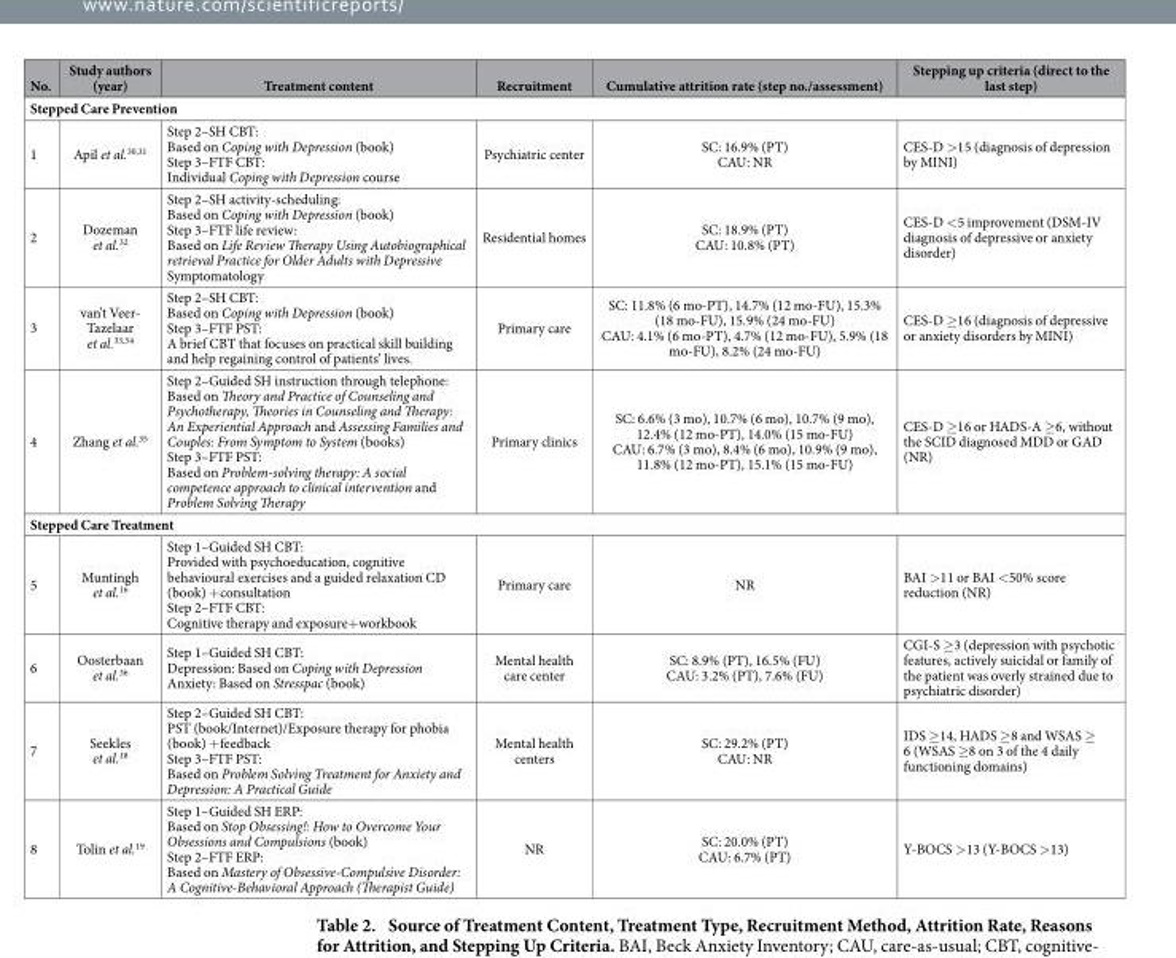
<table><thead><tr><td>No.</td><td>Study authors (year)</td><td>Treatment content</td><td>Recruitment</td><td>Cumulative attrition rate (step no./assessment)</td><td>Stepping up criteria (direct to the last step)</td></tr></thead><tbody><tr><td colspan="6">Stepped Care Prevention</td></tr><tr><td>1</td><td>Apil et al.<sup>30</sup>,<sup>31</sup></td><td>Step 2–SH CBT: Based on Coping with Depression (book) Step 3–FTF CBT: Individual Coping with Depression course</td><td>Psychiatric center</td><td>SC: 16.9% (PT) CAU: NR</td><td>CES-D &gt; 15 (diagnosis of depression by MINI)</td></tr><tr><td>2</td><td>Dozeman et al.<sup>32</sup></td><td>Step 2–SH activity-scheduling: Based on Coping with Depression (book) Step 3–FTF life review: Based on Life Review Therapy Using Autobiographical retrieval Practice for Older Adults with Depressive Symptomatology</td><td>Residential homes</td><td>SC: 18.9% (PT) CAU: 10.8% (PT)</td><td>CES-D &lt; 5 improvement (DSM-IV diagnosis of depressive or anxiety disorder)</td></tr><tr><td>3</td><td>van’t Veer- Tazelaar et al.<sup>33</sup>,<sup>34</sup></td><td>Step 2–SH CBT: Based on Coping with Depression (book) Step 3–FTF PST: A brief CBT that focuses on practical skill building and help regaining control of patients’ lives.</td><td>Primary care</td><td>SC: 11.8% (6 mo-PT), 14.7% (12 mo-FU), 15.3% (18 mo-FU), 15.9% (24 mo-FU) CAU: 4.1% (6 mo-PT), 4.7% (12 mo-FU), 5.9% (18 mo-FU), 8.2% (24 mo-FU)</td><td>CES-D ≥ 16 (diagnosis of depressive or anxiety disorders by MINI)</td></tr><tr><td>4</td><td>Zhang et al.<sup>35</sup></td><td>Step 2–Guided SH instruction through telephone: Based on Theory and Practice of Counseling and Psychotherapy, Theories in Counseling and Therapy: An Experiential Approach and Assessing Families and Couples: From Symptom to System (books) Step 3–FTF PST: Based on Problem-solving therapy: A social competence approach to clinical intervention and Problem Solving Therapy</td><td>Primary clinics</td><td>SC: 6.6% (3 mo), 10.7% (6 mo), 10.7% (9 mo), 12.4% (12 mo-PT), 14.0% (15 mo-FU) CAU: 6.7% (3 mo), 8.4% (6 mo), 10.9% (9 mo), 11.8% (12 mo-PT), 15.1% (15 mo-FU)</td><td>CES-D ≥ 16 or HADS-A ≥ 6, without the SCID diagnosed MDD or GAD (NR)</td></tr><tr><td colspan="6">Stepped Care Treatment</td></tr><tr><td>5</td><td>Muntingh et al.<sup>16</sup></td><td>Step 1–Guided SH CBT: Provided with psychoeducation, cognitive behavioural exercises and a guided relaxation CD (book) + consultation Step 2–FTF CBT: Cognitive therapy and exposure+ workbook</td><td>Primary care</td><td>NR</td><td>BAI &gt; 11 or BAI &lt; 50% score reduction (NR)</td></tr><tr><td>6</td><td>Oosterbaan et al.<sup>36</sup></td><td>Step 1–Guided SH CBT: Depression: Based on Coping with Depression Anxiety: Based on Stresspac (book)</td><td>Mental health care center</td><td>SC: 8.9% (PT), 16.5% (FU) CAU: 3.2% (PT), 7.6% (FU)</td><td>CGI-S ≥ 3 (depression with psychotic features, actively suicidal or family of the patient was overly strained due to psychiatric disorder)</td></tr><tr><td>7</td><td>Seekles et al.<sup>18</sup></td><td>Step 2–Guided SH CBT: PST (book/Internet)/Exposure therapy for phobia (book) + feedback Step 3–FTF PST: Based on Problem Solving Treatment for Anxiety and Depression: A Practical Guide</td><td>Mental health centers</td><td>SC: 29.2% (PT) CAU: NR</td><td>IDS ≥ 14, HADS ≥ 8 and WSAS ≥ 6 (WSAS ≥ 8 on 3 of the 4 daily functioning domains)</td></tr><tr><td>8</td><td>Tolin et al.<sup>19</sup></td><td>Step 1–Guided SH ERP: Based on Stop Obsessing!: How to Overcome Your Obsessions and Compulsions (book) Step 2–FTF ERP: Based on Mastery of Obsessive-Compulsive Disorder: A Cognitive-Behavioral Approach (Therapist Guide)</td><td>NR</td><td>SC: 20.0% (PT) CAU: 6.7% (PT)</td><td>Y-BOCS &gt; 13 (Y-BOCS &gt; 13)</td></tr></tbody></table>